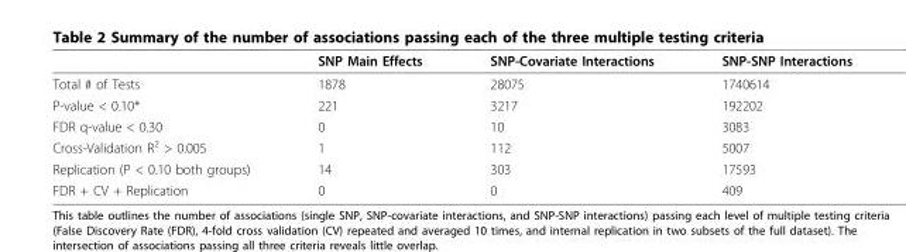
<table><thead><tr><td></td><td>SNP Main Effects</td><td>SNP-Covariate Interactions</td><td>SNP-SNP Interactions</td></tr></thead><tbody><tr><td>Total # of Tests</td><td>1878</td><td>28075</td><td>1740614</td></tr><tr><td>P-value &lt; 0.10*</td><td>221</td><td>3217</td><td>192202</td></tr><tr><td>FDR q-value &lt; 0.30</td><td>0</td><td>10</td><td>3083</td></tr><tr><td>Cross-Validation R<sup>2</sup> &gt; 0.005</td><td>1</td><td>112</td><td>5007</td></tr><tr><td>Replication (P &lt; 0.10 both groups)</td><td>14</td><td>303</td><td>17593</td></tr><tr><td>FDR + CV + Replication</td><td>0</td><td>0</td><td>409</td></tr></tbody></table>